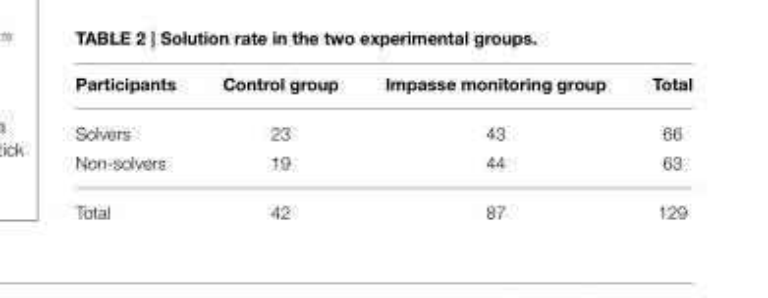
<table><thead><tr><td>Participants</td><td>Control group</td><td>Impasse monitoring group</td><td>Total</td></tr></thead><tbody><tr><td>Solvers</td><td>23</td><td>43</td><td>66</td></tr><tr><td>Non-solvers</td><td>19</td><td>44</td><td>63</td></tr><tr><td>Total</td><td>42</td><td>87</td><td>129</td></tr></tbody></table>